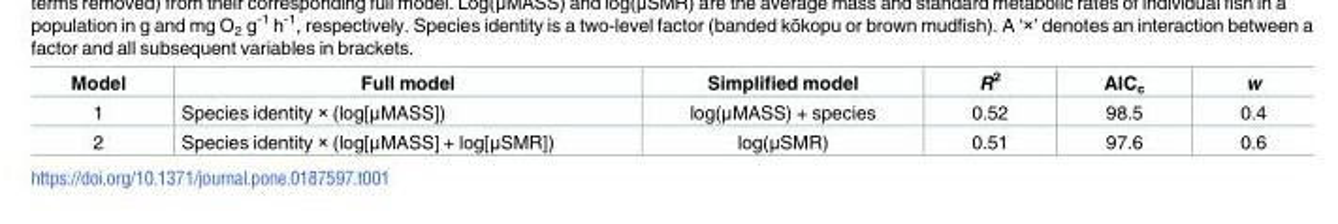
<table><thead><tr><td>Model</td><td>Full model</td><td>Simplified model</td><td>R<sup>2</sup></td><td>AIC<sub>c</sub></td><td>w</td></tr></thead><tbody><tr><td>1</td><td>Species identity × (log[μMASS])</td><td>log(μMASS) + species</td><td>0.52</td><td>98.5</td><td>0.4</td></tr><tr><td>2</td><td>Species identity × (log[μMASS] + log[μSMR])</td><td>log(μSMR)</td><td>0.51</td><td>97.6</td><td>0.6</td></tr></tbody></table>